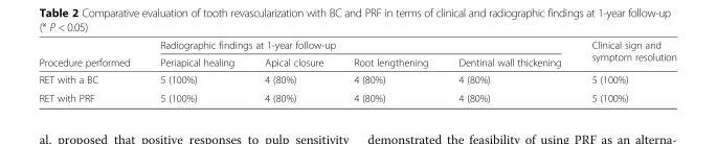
<table><thead><tr><td rowspan="2">Procedure performed</td><td colspan="4">Radiographic findings at 1-year follow-up</td><td rowspan="2">Clinical sign and symptom resolution</td></tr><tr><td>Periapical healing</td><td>Apical closure</td><td>Root lengthening</td><td>Dentinal wall thickening</td></tr></thead><tbody><tr><td>RET with a BC</td><td>5 (100%)</td><td>4 (80%)</td><td>4 (80%)</td><td>4 (80%)</td><td>5 (100%)</td></tr><tr><td>RET with PRF</td><td>5 (100%)</td><td>4 (80%)</td><td>4 (80%)</td><td>4 (80%)</td><td>5 (100%)</td></tr></tbody></table>